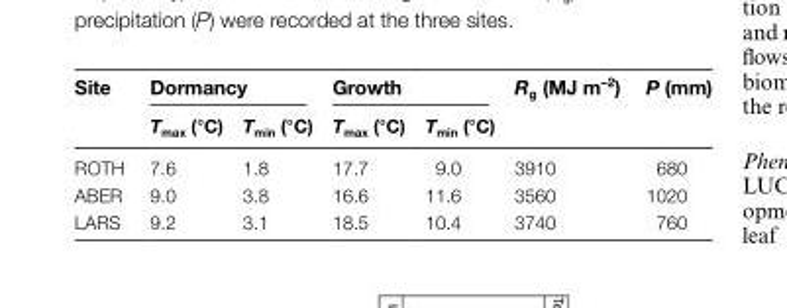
<table><thead><tr><td rowspan="2">Site</td><td colspan="2">Dormancy</td><td colspan="2">Growth</td><td rowspan="2">R<sub>g</sub> (MJ m<sup>–2</sup>)</td><td rowspan="2">P (mm)</td></tr><tr><td>T<sub>max</sub> (°C)</td><td>T<sub>min</sub> (°C)</td><td>T<sub>max</sub> (°C)</td><td>T<sub>min</sub> (°C)</td></tr></thead><tbody><tr><td>ROTH</td><td>7.6</td><td>1.8</td><td>17.7</td><td>9.0</td><td>3910</td><td>680</td></tr><tr><td>ABER</td><td>9.0</td><td>3.8</td><td>16.6</td><td>11.6</td><td>3560</td><td>1020</td></tr><tr><td>LARS</td><td>9.2</td><td>3.1</td><td>18.5</td><td>10.4</td><td>3740</td><td>760</td></tr></tbody></table>